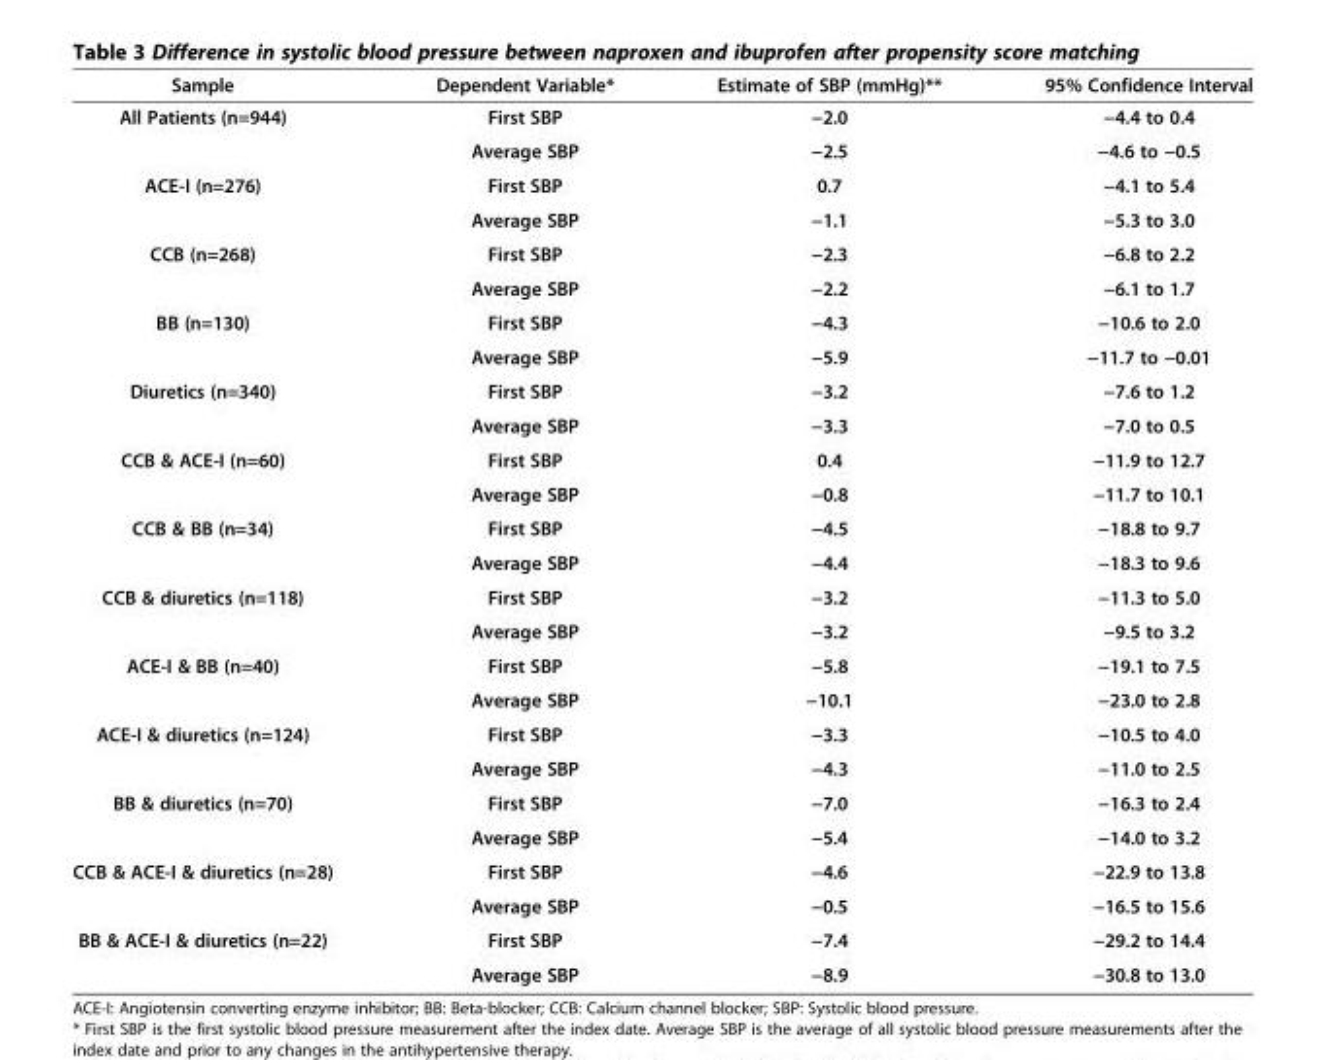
<table><thead><tr><td>Sample</td><td>Dependent Variable*</td><td>Estimate of SBP (mmHg)**</td><td>95% Confidence Interval</td></tr></thead><tbody><tr><td rowspan="2">All Patients (n=944)</td><td>First SBP</td><td>−2.0</td><td>−4.4 to 0.4</td></tr><tr><td>Average SBP</td><td>−2.5</td><td>−4.6 to −0.5</td></tr><tr><td rowspan="2">ACE-I (n=276)</td><td>First SBP</td><td>0.7</td><td>−4.1 to 5.4</td></tr><tr><td>Average SBP</td><td>−1.1</td><td>−5.3 to 3.0</td></tr><tr><td rowspan="2">CCB (n=268)</td><td>First SBP</td><td>−2.3</td><td>−6.8 to 2.2</td></tr><tr><td>Average SBP</td><td>−2.2</td><td>−6.1 to 1.7</td></tr><tr><td rowspan="2">BB (n=130)</td><td>First SBP</td><td>−4.3</td><td>−10.6 to 2.0</td></tr><tr><td>Average SBP</td><td>−5.9</td><td>−11.7 to −0.01</td></tr><tr><td rowspan="2">Diuretics (n=340)</td><td>First SBP</td><td>−3.2</td><td>−7.6 to 1.2</td></tr><tr><td>Average SBP</td><td>−3.3</td><td>−7.0 to 0.5</td></tr><tr><td rowspan="2">CCB &amp; ACE-I (n=60)</td><td>First SBP</td><td>0.4</td><td>−11.9 to 12.7</td></tr><tr><td>Average SBP</td><td>−0.8</td><td>−11.7 to 10.1</td></tr><tr><td rowspan="2">CCB &amp; BB (n=34)</td><td>First SBP</td><td>−4.5</td><td>−18.8 to 9.7</td></tr><tr><td>Average SBP</td><td>−4.4</td><td>−18.3 to 9.6</td></tr><tr><td rowspan="2">CCB &amp; diuretics (n=118)</td><td>First SBP</td><td>−3.2</td><td>−11.3 to 5.0</td></tr><tr><td>Average SBP</td><td>−3.2</td><td>−9.5 to 3.2</td></tr><tr><td rowspan="2">ACE-I &amp; BB (n=40)</td><td>First SBP</td><td>−5.8</td><td>−19.1 to 7.5</td></tr><tr><td>Average SBP</td><td>−10.1</td><td>−23.0 to 2.8</td></tr><tr><td rowspan="2">ACE-I &amp; diuretics (n=124)</td><td>First SBP</td><td>−3.3</td><td>−10.5 to 4.0</td></tr><tr><td>Average SBP</td><td>−4.3</td><td>−11.0 to 2.5</td></tr><tr><td rowspan="2">BB &amp; diuretics (n=70)</td><td>First SBP</td><td>−7.0</td><td>−16.3 to 2.4</td></tr><tr><td>Average SBP</td><td>−5.4</td><td>−14.0 to 3.2</td></tr><tr><td rowspan="2">CCB &amp; ACE-I &amp; diuretics (n=28)</td><td>First SBP</td><td>−4.6</td><td>−22.9 to 13.8</td></tr><tr><td>Average SBP</td><td>−0.5</td><td>−16.5 to 15.6</td></tr><tr><td rowspan="2">BB &amp; ACE-I &amp; diuretics (n=22)</td><td>First SBP</td><td>−7.4</td><td>−29.2 to 14.4</td></tr><tr><td>Average SBP</td><td>−8.9</td><td>−30.8 to 13.0</td></tr></tbody></table>